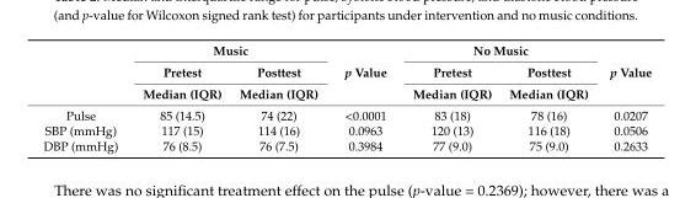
<table><thead><tr><td rowspan="3"></td><td colspan="2">Music</td><td rowspan="3">p Value</td><td colspan="2">No Music</td><td rowspan="3">p Value</td></tr><tr><td rowspan="2">Pretest Median (IQR)</td><td rowspan="2">Posttest Median (IQR)</td><td rowspan="2">Pretest Median (IQR)</td><td rowspan="2">Posttest Median (IQR)</td></tr><tr></tr></thead><tbody><tr><td>Pulse</td><td>85 (14.5)</td><td>74 (22)</td><td>&lt;0.0001</td><td>83 (18)</td><td>78 (16)</td><td>0.0207</td></tr><tr><td>SBP (mmHg)</td><td>117 (15)</td><td>114 (16)</td><td>0.0963</td><td>120 (13)</td><td>116 (18)</td><td>0.0506</td></tr><tr><td>DBP (mmHg)</td><td>76 (8.5)</td><td>76 (7.5)</td><td>0.3984</td><td>77 (9.0)</td><td>75 (9.0)</td><td>0.2633</td></tr></tbody></table>